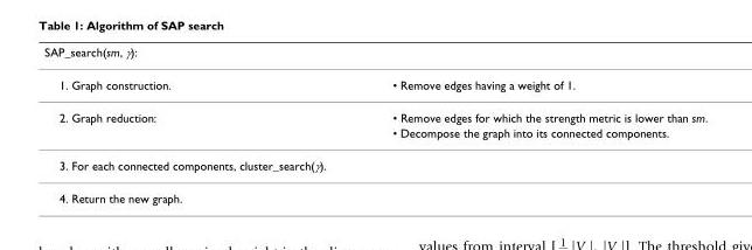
<table><thead><tr><td>SAP_search(sm, γ):</td><td></td></tr></thead><tbody><tr><td>1. Graph construction.</td><td>• Remove edges having a weight of 1.</td></tr><tr><td rowspan="2">2. Graph reduction:</td><td>• Remove edges for which the strength metric is lower than sm.</td></tr><tr><td>• Decompose the graph into its connected components.</td></tr><tr><td colspan="2">3. For each connected components, cluster_search(γ).</td></tr><tr><td>4. Return the new graph.</td><td></td></tr></tbody></table>